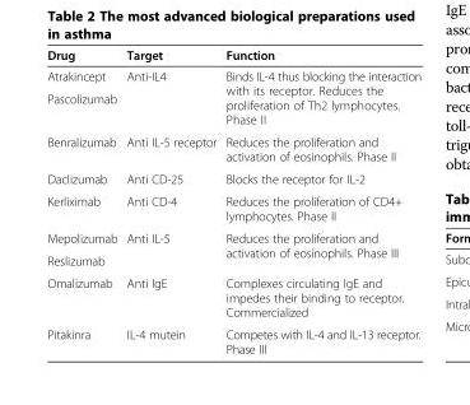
<table><thead><tr><td>Drug</td><td>Target</td><td>Function</td></tr></thead><tbody><tr><td>Atrakincept</td><td rowspan="2">Anti-IL4</td><td rowspan="2">Binds IL-4 thus blocking the interaction with its receptor. Reduces the proliferation of Th2 lymphocytes. Phase II</td></tr><tr><td>Pascolizumab</td></tr><tr><td>Benralizumab</td><td>Anti IL-5 receptor</td><td>Reduces the proliferation and activation of eosinophils. Phase II</td></tr><tr><td>Daclizumab</td><td>Anti CD-25</td><td>Blocks the receptor for IL-2</td></tr><tr><td>Kerliximab</td><td>Anti CD-4</td><td>Reduces the proliferation of CD4+ lymphocytes. Phase II</td></tr><tr><td>Mepolizumab</td><td rowspan="2">Anti IL-5</td><td rowspan="2">Reduces the proliferation and activation of eosinophils. Phase III</td></tr><tr><td>Reslizumab</td></tr><tr><td>Omalizumab</td><td>Anti IgE</td><td>Complexes circulating IgE and impedes their binding to receptor. Commercialized</td></tr><tr><td>Pitakinra</td><td>IL-4 mutein</td><td>Competes with IL-4 and IL-13 receptor. Phase III</td></tr></tbody></table>